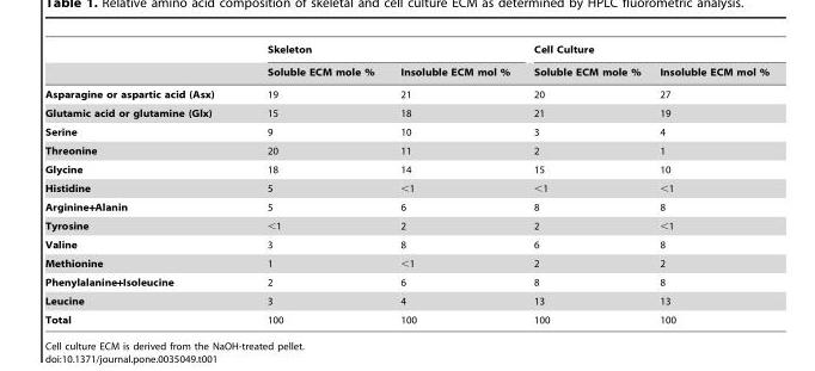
<table><thead><tr><td rowspan="2"></td><td colspan="2">Skeleton</td><td colspan="2">Cell Culture</td></tr><tr><td>Soluble ECM mole %</td><td>Insoluble ECM mol %</td><td>Soluble ECM mole %</td><td>Insoluble ECM mol %</td></tr></thead><tbody><tr><td>Asparagine or aspartic acid (Asx)</td><td>19</td><td>21</td><td>20</td><td>27</td></tr><tr><td>Glutamic acid or glutamine (Glx)</td><td>15</td><td>18</td><td>21</td><td>19</td></tr><tr><td>Serine</td><td>9</td><td>10</td><td>3</td><td>4</td></tr><tr><td>Threonine</td><td>20</td><td>11</td><td>2</td><td>1</td></tr><tr><td>Glycine</td><td>18</td><td>14</td><td>15</td><td>10</td></tr><tr><td>Histidine</td><td>5</td><td>&lt;1</td><td>&lt;1</td><td>&lt;1</td></tr><tr><td>Arginine+Alanin</td><td>5</td><td>6</td><td>8</td><td>8</td></tr><tr><td>Tyrosine</td><td>&lt;1</td><td>2</td><td>2</td><td>&lt;1</td></tr><tr><td>Valine</td><td>3</td><td>8</td><td>6</td><td>8</td></tr><tr><td>Methionine</td><td>1</td><td>&lt;1</td><td>2</td><td>2</td></tr><tr><td>Phenylalanine+Isoleucine</td><td>2</td><td>6</td><td>8</td><td>8</td></tr><tr><td>Leucine</td><td>3</td><td>4</td><td>13</td><td>13</td></tr><tr><td>Total</td><td>100</td><td>100</td><td>100</td><td>100</td></tr></tbody></table>